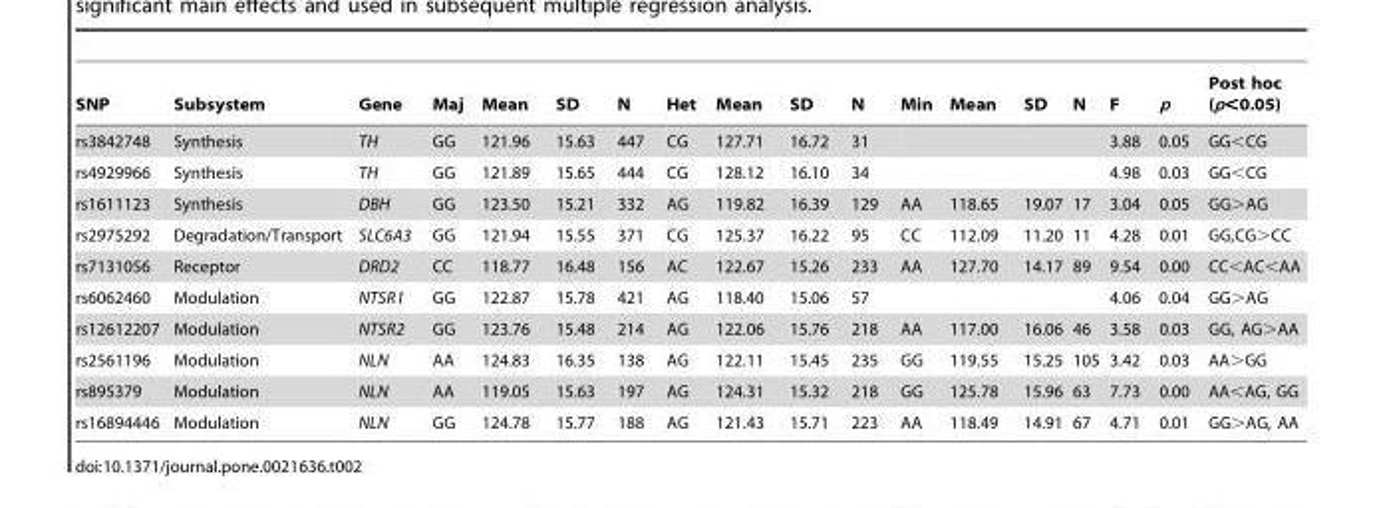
<table><thead><tr><td>SNP</td><td>Subsystem</td><td>Gene</td><td>Maj</td><td>Mean</td><td>SD</td><td>N</td><td>Het</td><td>Mean</td><td>SD</td><td>N</td><td>Min</td><td>Mean</td><td>SD</td><td>N</td><td>F</td><td>p</td><td>Post hoc (p&lt;0.05)</td></tr></thead><tbody><tr><td>rs3842748</td><td>Synthesis</td><td>TH</td><td>GG</td><td>121.96</td><td>15.63</td><td>447</td><td>CG</td><td>127.71</td><td>16.72</td><td>31</td><td></td><td></td><td></td><td></td><td>3.88</td><td>0.05</td><td>GG&lt;CG</td></tr><tr><td>rs4929966</td><td>Synthesis</td><td>TH</td><td>GG</td><td>121.89</td><td>15.65</td><td>444</td><td>CG</td><td>128.12</td><td>16.10</td><td>34</td><td></td><td></td><td></td><td></td><td>4.98</td><td>0.03</td><td>GG&lt;CG</td></tr><tr><td>rs1611123</td><td>Synthesis</td><td>DBH</td><td>GG</td><td>123.50</td><td>15.21</td><td>332</td><td>AG</td><td>119.82</td><td>16.39</td><td>129</td><td>AA</td><td>118.65</td><td>19.07</td><td>17</td><td>3.04</td><td>0.05</td><td>GG&gt;AG</td></tr><tr><td>rs2975292</td><td>Degradation/Transport</td><td>SLC6A3</td><td>GG</td><td>121.94</td><td>15.55</td><td>371</td><td>CG</td><td>125.37</td><td>16.22</td><td>95</td><td>CC</td><td>112.09</td><td>11.20</td><td>11</td><td>4.28</td><td>0.01</td><td>GG,CG&gt;CC</td></tr><tr><td>rs7131056</td><td>Receptor</td><td>DRD2</td><td>CC</td><td>118.77</td><td>16.48</td><td>156</td><td>AC</td><td>122.67</td><td>15.26</td><td>233</td><td>AA</td><td>127.70</td><td>14.17</td><td>89</td><td>9.54</td><td>0.00</td><td>CC&lt;AC&lt;AA</td></tr><tr><td>rs6062460</td><td>Modulation</td><td>NTSR1</td><td>GG</td><td>122.87</td><td>15.78</td><td>421</td><td>AG</td><td>118.40</td><td>15.06</td><td>57</td><td></td><td></td><td></td><td></td><td>4.06</td><td>0.04</td><td>GG&gt;AG</td></tr><tr><td>rs12612207</td><td>Modulation</td><td>NTSR2</td><td>GG</td><td>123.76</td><td>15.48</td><td>214</td><td>AG</td><td>122.06</td><td>15.76</td><td>218</td><td>AA</td><td>117.00</td><td>16.06</td><td>46</td><td>3.58</td><td>0.03</td><td>GG, AG&gt;AA</td></tr><tr><td>rs2561196</td><td>Modulation</td><td>NLN</td><td>AA</td><td>124.83</td><td>16.35</td><td>138</td><td>AG</td><td>122.11</td><td>15.45</td><td>235</td><td>GG</td><td>119.55</td><td>15.25</td><td>105</td><td>3.42</td><td>0.03</td><td>AA&gt;GG</td></tr><tr><td>rs895379</td><td>Modulation</td><td>NLN</td><td>AA</td><td>119.05</td><td>15.63</td><td>197</td><td>AG</td><td>124.31</td><td>15.32</td><td>218</td><td>GG</td><td>125.78</td><td>15.96</td><td>63</td><td>7.73</td><td>0.00</td><td>AA&lt;AG, GG</td></tr><tr><td>rs16894446</td><td>Modulation</td><td>NLN</td><td>GG</td><td>124.78</td><td>15.77</td><td>188</td><td>AG</td><td>121.43</td><td>15.71</td><td>223</td><td>AA</td><td>118.49</td><td>14.91</td><td>67</td><td>4.71</td><td>0.01</td><td>GG&gt;AG, AA</td></tr></tbody></table>